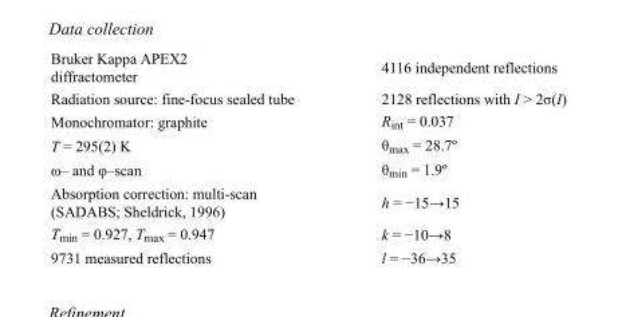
<table><tbody><tr><td>Bruker Kappa APEX2 diffractometer</td><td>4116 independent reflections</td></tr><tr><td>Radiation source: fine-focus sealed tube</td><td>2128 reflections with I &gt; 2σ(I)</td></tr><tr><td>Monochromator: graphite</td><td>R<sub>int</sub> = 0.037</td></tr><tr><td>T = 295(2) K</td><td>θ<sub>max</sub> = 28.7º</td></tr><tr><td>ω– and φ–scan</td><td>θ<sub>min</sub> = 1.9º</td></tr><tr><td>Absorption correction: multi-scan (SADABS; Sheldrick, 1996)</td><td>h = −15→15</td></tr><tr><td>T<sub>min</sub> = 0.927, T<sub>max</sub> = 0.947</td><td>k = −10→8</td></tr><tr><td>9731 measured reflections</td><td>l = −36→35</td></tr></tbody></table>